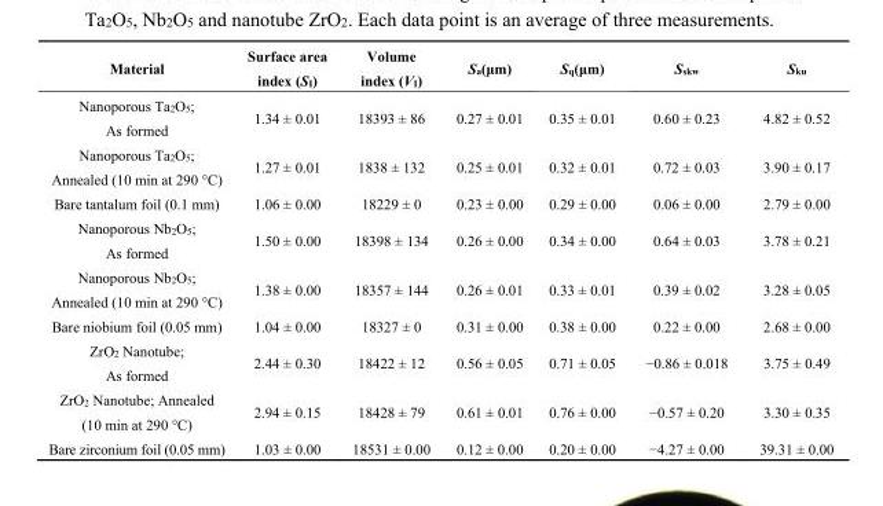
<table><thead><tr><td>Material</td><td>Surface area index (S<sub>I</sub>)</td><td>Volume index (V<sub>I</sub>)</td><td>S<sub>a</sub>(μm)</td><td>S<sub>q</sub>(μm)</td><td>S<sub>skw</sub></td><td>S<sub>ku</sub></td></tr></thead><tbody><tr><td>Nanoporous Ta<sub>2</sub>O<sub>5</sub>; As formed</td><td>1.34 ± 0.01</td><td>18393 ± 86</td><td>0.27 ± 0.01</td><td>0.35 ± 0.01</td><td>0.60 ± 0.23</td><td>4.82 ± 0.52</td></tr><tr><td>Nanoporous Ta<sub>2</sub>O<sub>5</sub>; Annealed (10 min at 290 °C)</td><td>1.27 ± 0.01</td><td>1838 ± 132</td><td>0.25 ± 0.01</td><td>0.32 ± 0.01</td><td>0.72 ± 0.03</td><td>3.90 ± 0.17</td></tr><tr><td>Bare tantalum foil (0.1 mm)</td><td>1.06 ± 0.00</td><td>18229 ± 0</td><td>0.23 ± 0.00</td><td>0.29 ± 0.00</td><td>0.06 ± 0.00</td><td>2.79 ± 0.00</td></tr><tr><td>Nanoporous Nb<sub>2</sub>O<sub>5</sub>; As formed</td><td>1.50 ± 0.00</td><td>18398 ± 134</td><td>0.26 ± 0.00</td><td>0.34 ± 0.00</td><td>0.64 ± 0.03</td><td>3.78 ± 0.21</td></tr><tr><td>Nanoporous Nb<sub>2</sub>O<sub>5</sub>; Annealed (10 min at 290 °C)</td><td>1.38 ± 0.00</td><td>18357 ± 144</td><td>0.26 ± 0.01</td><td>0.33 ± 0.01</td><td>0.39 ± 0.02</td><td>3.28 ± 0.05</td></tr><tr><td>Bare niobium foil (0.05 mm)</td><td>1.04 ± 0.00</td><td>18327 ± 0</td><td>0.31 ± 0.00</td><td>0.38 ± 0.00</td><td>0.22 ± 0.00</td><td>2.68 ± 0.00</td></tr><tr><td>ZrO<sub>2</sub> Nanotube; As formed</td><td>2.44 ± 0.30</td><td>18422 ± 12</td><td>0.56 ± 0.05</td><td>0.71 ± 0.05</td><td>−0.86 ± 0.018</td><td>3.75 ± 0.49</td></tr><tr><td>ZrO<sub>2</sub> Nanotube; Annealed (10 min at 290 °C)</td><td>2.94 ± 0.15</td><td>18428 ± 79</td><td>0.61 ± 0.01</td><td>0.76 ± 0.00</td><td>−0.57 ± 0.20</td><td>3.30 ± 0.35</td></tr><tr><td>Bare zirconium foil (0.05 mm)</td><td>1.03 ± 0.00</td><td>18531 ± 0.00</td><td>0.12 ± 0.00</td><td>0.20 ± 0.00</td><td>−4.27 ± 0.00</td><td>39.31 ± 0.00</td></tr></tbody></table>